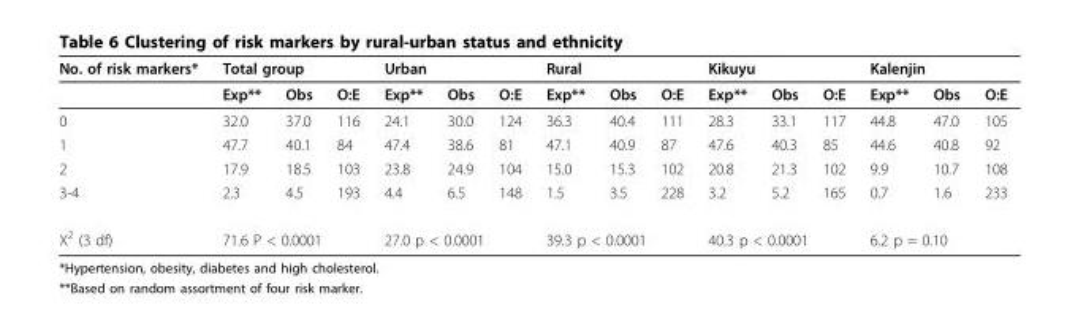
<table><thead><tr><td rowspan="2">No. of risk markers*</td><td colspan="3">Total group</td><td colspan="3">Urban</td><td colspan="3">Rural</td><td colspan="3">Kikuyu</td><td colspan="3">Kalenjin</td></tr><tr><td>Exp**</td><td>Obs</td><td>O:E</td><td>Exp**</td><td>Obs</td><td>O:E</td><td>Exp**</td><td>Obs</td><td>O:E</td><td>Exp**</td><td>Obs</td><td>O:E</td><td>Exp**</td><td>Obs</td><td>O:E</td></tr></thead><tbody><tr><td>0</td><td>32.0</td><td>37.0</td><td>116</td><td>24.1</td><td>30.0</td><td>124</td><td>36.3</td><td>40.4</td><td>111</td><td>28.3</td><td>33.1</td><td>117</td><td>44.8</td><td>47.0</td><td>105</td></tr><tr><td>1</td><td>47.7</td><td>40.1</td><td>84</td><td>47.4</td><td>38.6</td><td>81</td><td>47.1</td><td>40.9</td><td>87</td><td>47.6</td><td>40.3</td><td>85</td><td>44.6</td><td>40.8</td><td>92</td></tr><tr><td>2</td><td>17.9</td><td>18.5</td><td>103</td><td>23.8</td><td>24.9</td><td>104</td><td>15.0</td><td>15.3</td><td>102</td><td>20.8</td><td>21.3</td><td>102</td><td>9.9</td><td>10.7</td><td>108</td></tr><tr><td>3-4</td><td>2.3</td><td>4.5</td><td>193</td><td>4.4</td><td>6.5</td><td>148</td><td>1.5</td><td>3.5</td><td>228</td><td>3.2</td><td>5.2</td><td>165</td><td>0.7</td><td>1.6</td><td>233</td></tr><tr><td>Χ<sup>2</sup> (3 df)</td><td colspan="3">71.6 P &lt; 0.0001</td><td colspan="3">27.0 p &lt; 0.0001</td><td colspan="3">39.3 p &lt; 0.0001</td><td colspan="3">40.3 p &lt; 0.0001</td><td colspan="3">6.2 p = 0.10</td></tr></tbody></table>